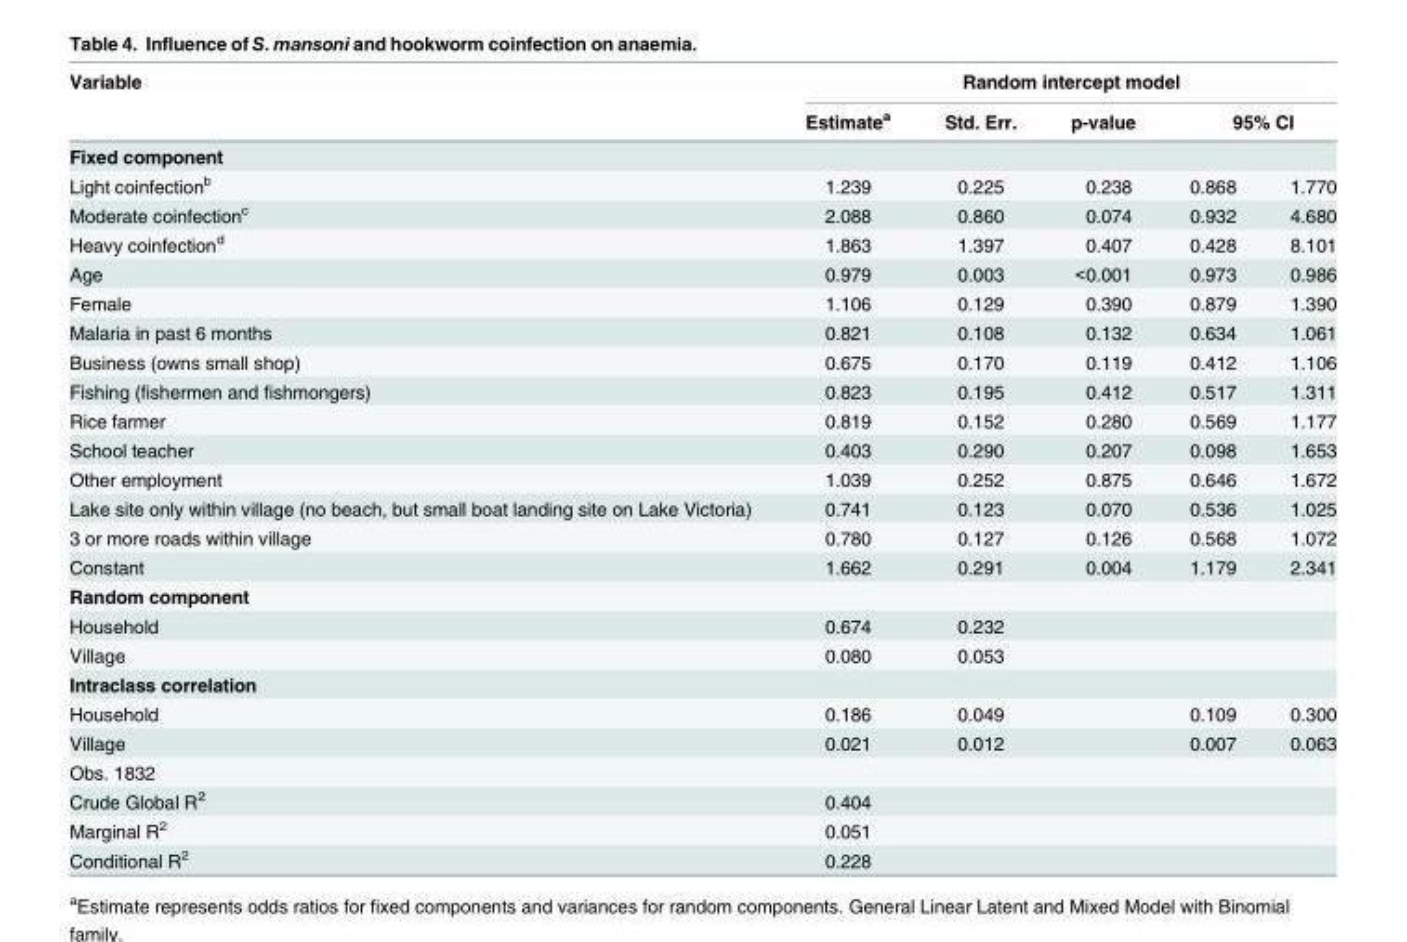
<table><thead><tr><td rowspan="3">Variable Fixed component</td><td colspan="5">Random intercept model</td></tr><tr><td rowspan="2">Estimate<sup>a</sup></td><td rowspan="2">Std. Err.</td><td rowspan="2">p-value</td><td colspan="2">95% CI</td></tr><tr><td></td><td></td></tr></thead><tbody><tr><td>Light coinfection<sup>b</sup></td><td>1.239</td><td>0.225</td><td>0.238</td><td>0.868</td><td>1.770</td></tr><tr><td>Moderate coinfection<sup>c</sup></td><td>2.088</td><td>0.860</td><td>0.074</td><td>0.932</td><td>4.680</td></tr><tr><td>Heavy coinfection<sup>d</sup></td><td>1.863</td><td>1.397</td><td>0.407</td><td>0.428</td><td>8.101</td></tr><tr><td>Age</td><td>0.979</td><td>0.003</td><td>&lt;0.001</td><td>0.973</td><td>0.986</td></tr><tr><td>Female</td><td>1.106</td><td>0.129</td><td>0.390</td><td>0.879</td><td>1.390</td></tr><tr><td>Malaria in past 6 months</td><td>0.821</td><td>0.108</td><td>0.132</td><td>0.634</td><td>1.061</td></tr><tr><td>Business (owns small shop)</td><td>0.675</td><td>0.170</td><td>0.119</td><td>0.412</td><td>1.106</td></tr><tr><td>Fishing (fishermen and fishmongers)</td><td>0.823</td><td>0.195</td><td>0.412</td><td>0.517</td><td>1.311</td></tr><tr><td>Rice farmer</td><td>0.819</td><td>0.152</td><td>0.280</td><td>0.569</td><td>1.177</td></tr><tr><td>School teacher</td><td>0.403</td><td>0.290</td><td>0.207</td><td>0.098</td><td>1.653</td></tr><tr><td>Other employment</td><td>1.039</td><td>0.252</td><td>0.875</td><td>0.646</td><td>1.672</td></tr><tr><td>Lake site only within village (no beach, but small boat landing site on Lake Victoria)</td><td>0.741</td><td>0.123</td><td>0.070</td><td>0.536</td><td>1.025</td></tr><tr><td>3 or more roads within village</td><td>0.780</td><td>0.127</td><td>0.126</td><td>0.568</td><td>1.072</td></tr><tr><td>Constant</td><td>1.662</td><td>0.291</td><td>0.004</td><td>1.179</td><td>2.341</td></tr><tr><td colspan="6">Random component</td></tr><tr><td>Household</td><td>0.674</td><td>0.232</td><td></td><td></td><td></td></tr><tr><td>Village</td><td>0.080</td><td>0.053</td><td></td><td></td><td></td></tr><tr><td colspan="6">Intraclass correlation</td></tr><tr><td>Household</td><td>0.186</td><td>0.049</td><td></td><td>0.109</td><td>0.300</td></tr><tr><td>Village</td><td>0.021</td><td>0.012</td><td></td><td>0.007</td><td>0.063</td></tr><tr><td colspan="6">Obs. 1832</td></tr><tr><td>Crude Global R<sup>2</sup></td><td>0.404</td><td></td><td></td><td></td><td></td></tr><tr><td>Marginal R<sup>2</sup></td><td>0.051</td><td></td><td></td><td></td><td></td></tr><tr><td>Conditional R<sup>2</sup></td><td>0.228</td><td></td><td></td><td></td><td></td></tr></tbody></table>